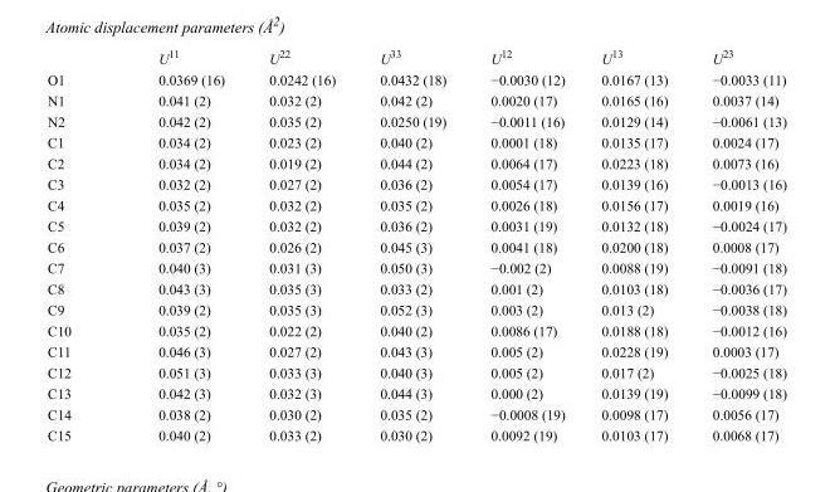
<table><thead><tr><td></td><td>U<sup>11</sup></td><td>U<sup>22</sup></td><td>U<sup>33</sup></td><td>U<sup>12</sup></td><td>U<sup>13</sup></td><td>U<sup>23</sup></td></tr></thead><tbody><tr><td>O1</td><td>0.0369 (16)</td><td>0.0242 (16)</td><td>0.0432 (18)</td><td>−0.0030 (12)</td><td>0.0167 (13)</td><td>−0.0033 (11)</td></tr><tr><td>N1</td><td>0.041 (2)</td><td>0.032 (2)</td><td>0.042 (2)</td><td>0.0020 (17)</td><td>0.0165 (16)</td><td>0.0037 (14)</td></tr><tr><td>N2</td><td>0.042 (2)</td><td>0.035 (2)</td><td>0.0250 (19)</td><td>−0.0011 (16)</td><td>0.0129 (14)</td><td>−0.0061 (13)</td></tr><tr><td>C1</td><td>0.034 (2)</td><td>0.023 (2)</td><td>0.040 (2)</td><td>0.0001 (18)</td><td>0.0135 (17)</td><td>0.0024 (17)</td></tr><tr><td>C2</td><td>0.034 (2)</td><td>0.019 (2)</td><td>0.044 (2)</td><td>0.0064 (17)</td><td>0.0223 (18)</td><td>0.0073 (16)</td></tr><tr><td>C3</td><td>0.032 (2)</td><td>0.027 (2)</td><td>0.036 (2)</td><td>0.0054 (17)</td><td>0.0139 (16)</td><td>−0.0013 (16)</td></tr><tr><td>C4</td><td>0.035 (2)</td><td>0.032 (2)</td><td>0.035 (2)</td><td>0.0026 (18)</td><td>0.0156 (17)</td><td>0.0019 (16)</td></tr><tr><td>C5</td><td>0.039 (2)</td><td>0.032 (2)</td><td>0.036 (2)</td><td>0.0031 (19)</td><td>0.0132 (18)</td><td>−0.0024 (17)</td></tr><tr><td>C6</td><td>0.037 (2)</td><td>0.026 (2)</td><td>0.045 (3)</td><td>0.0041 (18)</td><td>0.0200 (18)</td><td>0.0008 (17)</td></tr><tr><td>C7</td><td>0.040 (3)</td><td>0.031 (3)</td><td>0.050 (3)</td><td>−0.002 (2)</td><td>0.0088 (19)</td><td>−0.0091 (18)</td></tr><tr><td>C8</td><td>0.043 (3)</td><td>0.035 (3)</td><td>0.033 (2)</td><td>0.001 (2)</td><td>0.0103 (18)</td><td>−0.0036 (17)</td></tr><tr><td>C9</td><td>0.039 (2)</td><td>0.035 (3)</td><td>0.052 (3)</td><td>0.003 (2)</td><td>0.013 (2)</td><td>−0.0038 (18)</td></tr><tr><td>C10</td><td>0.035 (2)</td><td>0.022 (2)</td><td>0.040 (2)</td><td>0.0086 (17)</td><td>0.0188 (18)</td><td>−0.0012 (16)</td></tr><tr><td>C11</td><td>0.046 (3)</td><td>0.027 (2)</td><td>0.043 (3)</td><td>0.005 (2)</td><td>0.0228 (19)</td><td>0.0003 (17)</td></tr><tr><td>C12</td><td>0.051 (3)</td><td>0.033 (3)</td><td>0.040 (3)</td><td>0.005 (2)</td><td>0.017 (2)</td><td>−0.0025 (18)</td></tr><tr><td>C13</td><td>0.042 (3)</td><td>0.032 (3)</td><td>0.044 (3)</td><td>0.000 (2)</td><td>0.0139 (19)</td><td>−0.0099 (18)</td></tr><tr><td>C14</td><td>0.038 (2)</td><td>0.030 (2)</td><td>0.035 (2)</td><td>−0.0008 (19)</td><td>0.0098 (17)</td><td>0.0056 (17)</td></tr><tr><td>C15</td><td>0.040 (2)</td><td>0.033 (2)</td><td>0.030 (2)</td><td>0.0092 (19)</td><td>0.0103 (17)</td><td>0.0068 (17)</td></tr></tbody></table>